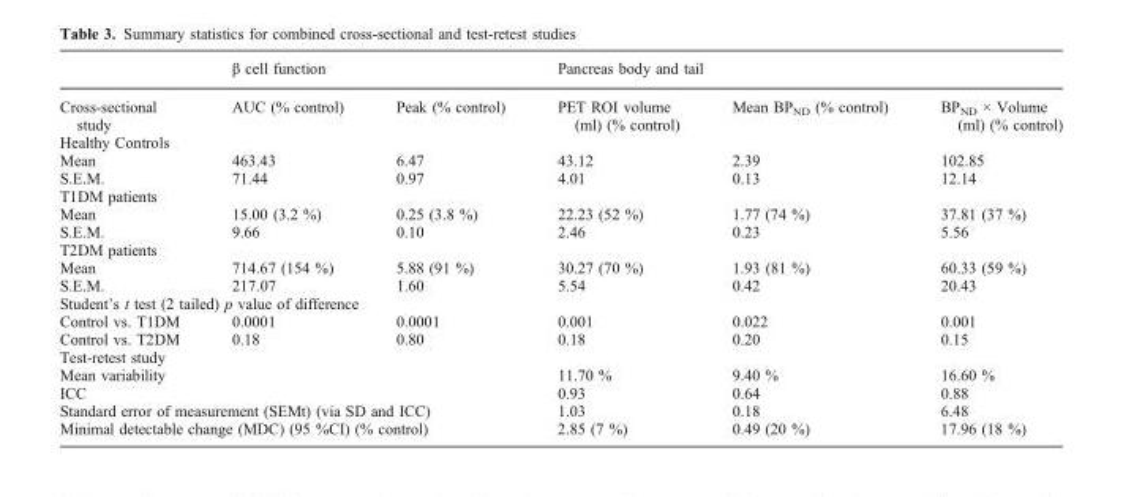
<table><thead><tr><td rowspan="2">Cross-sectional study</td><td colspan="2">β cell function</td><td colspan="3">Pancreas body and tail</td></tr><tr><td>AUC (% control)</td><td>Peak (% control)</td><td>PET ROI volume (ml) (% control)</td><td>Mean BP<sub>ND</sub> (% control)</td><td>BP<sub>ND</sub> × Volume (ml) (% control)</td></tr></thead><tbody><tr><td colspan="6">Healthy Controls</td></tr><tr><td>Mean</td><td>463.43</td><td>6.47</td><td>43.12</td><td>2.39</td><td>102.85</td></tr><tr><td>S.E.M.</td><td>71.44</td><td>0.97</td><td>4.01</td><td>0.13</td><td>12.14</td></tr><tr><td colspan="6">T1DM patients</td></tr><tr><td>Mean</td><td>15.00 (3.2 %)</td><td>0.25 (3.8 %)</td><td>22.23 (52 %)</td><td>1.77 (74 %)</td><td>37.81 (37 %)</td></tr><tr><td>S.E.M.</td><td>9.66</td><td>0.10</td><td>2.46</td><td>0.23</td><td>5.56</td></tr><tr><td colspan="6">T2DM patients</td></tr><tr><td>Mean</td><td>714.67 (154 %)</td><td>5.88 (91 %)</td><td>30.27 (70 %)</td><td>1.93 (81 %)</td><td>60.33 (59 %)</td></tr><tr><td>S.E.M.</td><td>217.07</td><td>1.60</td><td>5.54</td><td>0.42</td><td>20.43</td></tr><tr><td colspan="6">Student’s t test (2 tailed) p value of difference</td></tr><tr><td>Control vs. T1DM</td><td>0.0001</td><td>0.0001</td><td>0.001</td><td>0.022</td><td>0.001</td></tr><tr><td>Control vs. T2DM</td><td>0.18</td><td>0.80</td><td>0.18</td><td>0.20</td><td>0.15</td></tr><tr><td colspan="6">Test-retest study</td></tr><tr><td colspan="3">Mean variability</td><td>11.70 %</td><td>9.40 %</td><td>16.60 %</td></tr><tr><td colspan="3">ICC</td><td>0.93</td><td>0.64</td><td>0.88</td></tr><tr><td colspan="3">Standard error of measurement (SEMt) (via SD and ICC)</td><td>1.03</td><td>0.18</td><td>6.48</td></tr><tr><td colspan="3">Minimal detectable change (MDC) (95 %CI) (% control)</td><td>2.85 (7 %)</td><td>0.49 (20 %)</td><td>17.96 (18 %)</td></tr></tbody></table>